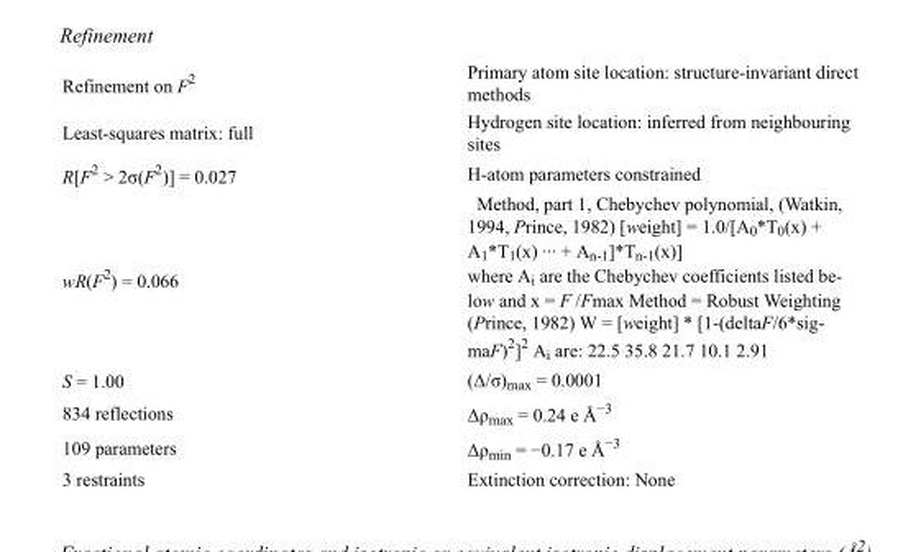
<table><tbody><tr><td>Refinement on F<sup>2</sup></td><td>Primary atom site location: structure-invariant direct methods</td></tr><tr><td>Least-squares matrix: full</td><td>Hydrogen site location: inferred from neighbouring sites</td></tr><tr><td>R[F<sup>2</sup> &gt; 2σ(F<sup>2</sup>)] = 0.027</td><td>H-atom parameters constrained</td></tr><tr><td>wR(F<sup>2</sup>) = 0.066</td><td>Method, part 1, Chebychev polynomial, (Watkin, 1994, Prince, 1982) [weight] = 1.0/[A0*T0(x) + A1*T1(x) ··· + An-1]*Tn-1(x)] where Ai are the Chebychev coefficients listed be- low and x = F /Fmax Method = Robust Weighting (Prince, 1982) W = [weight] * [1-(deltaF/6*sig- maF)2]2 Ai are: 22.5 35.8 21.7 10.1 2.91</td></tr><tr><td>S = 1.00</td><td>(Δ/σ)<sub>max</sub> = 0.0001</td></tr><tr><td>834 reflections</td><td>Δρ<sub>max</sub> = 0.24 e Å<sup>−3</sup></td></tr><tr><td>109 parameters</td><td>Δρ<sub>min</sub> = −0.17 e Å<sup>−3</sup></td></tr><tr><td>3 restraints</td><td>Extinction correction: None</td></tr></tbody></table>